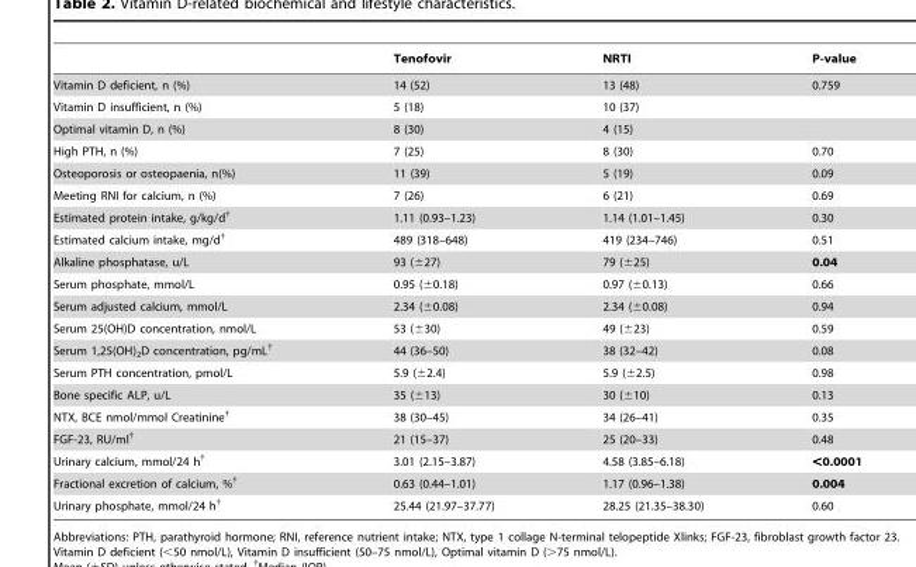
<table><thead><tr><td></td><td>Tenofovir</td><td>NRTI</td><td>P-value</td></tr></thead><tbody><tr><td>Vitamin D deficient, n (%)</td><td>14 (52)</td><td>13 (48)</td><td>0.759</td></tr><tr><td>Vitamin D insufficient, n (%)</td><td>5 (18)</td><td>10 (37)</td><td></td></tr><tr><td>Optimal vitamin D, n (%)</td><td>8 (30)</td><td>4 (15)</td><td></td></tr><tr><td>High PTH, n (%)</td><td>7 (25)</td><td>8 (30)</td><td>0.70</td></tr><tr><td>Osteoporosis or osteopaenia, n(%)</td><td>11 (39)</td><td>5 (19)</td><td>0.09</td></tr><tr><td>Meeting RNI for calcium, n (%)</td><td>7 (26)</td><td>6 (21)</td><td>0.69</td></tr><tr><td>Estimated protein intake, g/kg/d<sup>†</sup></td><td>1.11 (0.93–1.23)</td><td>1.14 (1.01–1.45)</td><td>0.30</td></tr><tr><td>Estimated calcium intake, mg/d<sup>†</sup></td><td>489 (318–648)</td><td>419 (234–746)</td><td>0.51</td></tr><tr><td>Alkaline phosphatase, u/L</td><td>93 (±27)</td><td>79 (±25)</td><td>0.04</td></tr><tr><td>Serum phosphate, mmol/L</td><td>0.95 (±0.18)</td><td>0.97 (±0.13)</td><td>0.66</td></tr><tr><td>Serum adjusted calcium, mmol/L</td><td>2.34 (±0.08)</td><td>2.34 (±0.08)</td><td>0.94</td></tr><tr><td>Serum 25(OH)D concentration, nmol/L</td><td>53 (±30)</td><td>49 (±23)</td><td>0.59</td></tr><tr><td>Serum 1,25(OH)<sub>2</sub>D concentration, pg/mL<sup>†</sup></td><td>44 (36–50)</td><td>38 (32–42)</td><td>0.08</td></tr><tr><td>Serum PTH concentration, pmol/L</td><td>5.9 (±2.4)</td><td>5.9 (±2.5)</td><td>0.98</td></tr><tr><td>Bone specific ALP, u/L</td><td>35 (±13)</td><td>30 (±10)</td><td>0.13</td></tr><tr><td>NTX, BCE nmol/mmol Creatinine<sup>†</sup></td><td>38 (30–45)</td><td>34 (26–41)</td><td>0.35</td></tr><tr><td>FGF-23, RU/ml<sup>†</sup></td><td>21 (15–37)</td><td>25 (20–33)</td><td>0.48</td></tr><tr><td>Urinary calcium, mmol/24 h<sup>†</sup></td><td>3.01 (2.15–3.87)</td><td>4.58 (3.85–6.18)</td><td>&lt;0.0001</td></tr><tr><td>Fractional excretion of calcium, %<sup>†</sup></td><td>0.63 (0.44–1.01)</td><td>1.17 (0.96–1.38)</td><td>0.004</td></tr><tr><td>Urinary phosphate, mmol/24 h<sup>†</sup></td><td>25.44 (21.97–37.77)</td><td>28.25 (21.35–38.30)</td><td>0.60</td></tr></tbody></table>